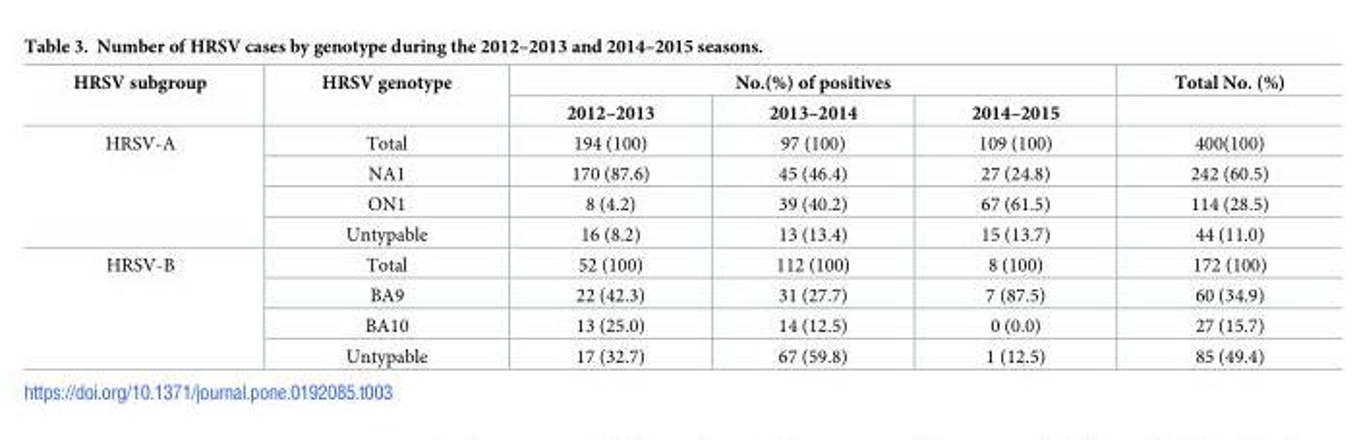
<table><thead><tr><td rowspan="2">HRSV subgroup</td><td rowspan="2">HRSV genotype</td><td colspan="3">No.(%) of positives</td><td rowspan="2">Total No. (%)</td></tr><tr><td>2012–2013</td><td>2013–2014</td><td>2014–2015</td></tr></thead><tbody><tr><td rowspan="4">HRSV-A</td><td>Total</td><td>194 (100)</td><td>97 (100)</td><td>109 (100)</td><td>400(100)</td></tr><tr><td>NA1</td><td>170 (87.6)</td><td>45 (46.4)</td><td>27 (24.8)</td><td>242 (60.5)</td></tr><tr><td>ON1</td><td>8 (4.2)</td><td>39 (40.2)</td><td>67 (61.5)</td><td>114 (28.5)</td></tr><tr><td>Untypable</td><td>16 (8.2)</td><td>13 (13.4)</td><td>15 (13.7)</td><td>44 (11.0)</td></tr><tr><td rowspan="4">HRSV-B</td><td>Total</td><td>52 (100)</td><td>112 (100)</td><td>8 (100)</td><td>172 (100)</td></tr><tr><td>BA9</td><td>22 (42.3)</td><td>31 (27.7)</td><td>7 (87.5)</td><td>60 (34.9)</td></tr><tr><td>BA10</td><td>13 (25.0)</td><td>14 (12.5)</td><td>0 (0.0)</td><td>27 (15.7)</td></tr><tr><td>Untypable</td><td>17 (32.7)</td><td>67 (59.8)</td><td>1 (12.5)</td><td>85 (49.4)</td></tr></tbody></table>